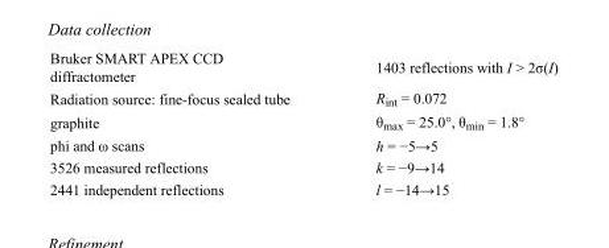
<table><tbody><tr><td>Bruker SMART APEX CCD diffractometer</td><td>1403 reflections with I &gt; 2σ(I)</td></tr><tr><td>Radiation source: fine-focus sealed tube</td><td>R<sub>int</sub> = 0.072</td></tr><tr><td>graphite</td><td>θ<sub>max</sub> = 25.0°, θ<sub>min</sub> = 1.8°</td></tr><tr><td>phi and ω scans</td><td>h = −5→5</td></tr><tr><td>3526 measured reflections</td><td>k = −9→14</td></tr><tr><td>2441 independent reflections</td><td>l = −14→15</td></tr></tbody></table>